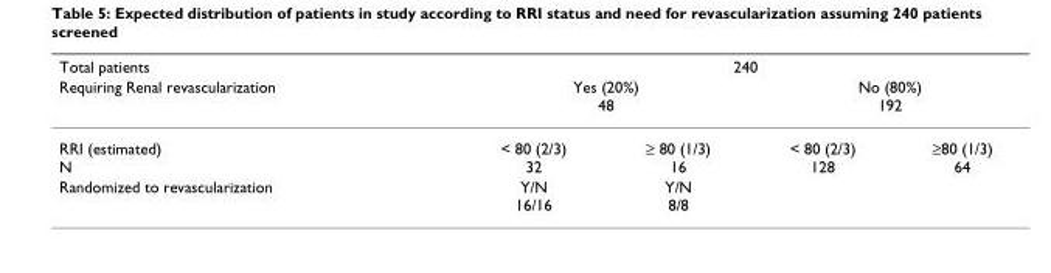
<table><thead><tr><td rowspan="3">Total patients Requiring Renal revascularization RRI (estimated) N</td><td colspan="4">240</td></tr><tr><td colspan="2">Yes (20%) 48</td><td colspan="2">No (80%) 192</td></tr><tr><td>&lt; 80 (2/3) 32</td><td>≥ 80 (1/3) 16</td><td>&lt; 80 (2/3) 128</td><td>≥80 (1/3) 64</td></tr></thead><tbody><tr><td>Randomized to revascularization</td><td>Y/N 16/16</td><td>Y/N 8/8</td><td></td><td></td></tr></tbody></table>